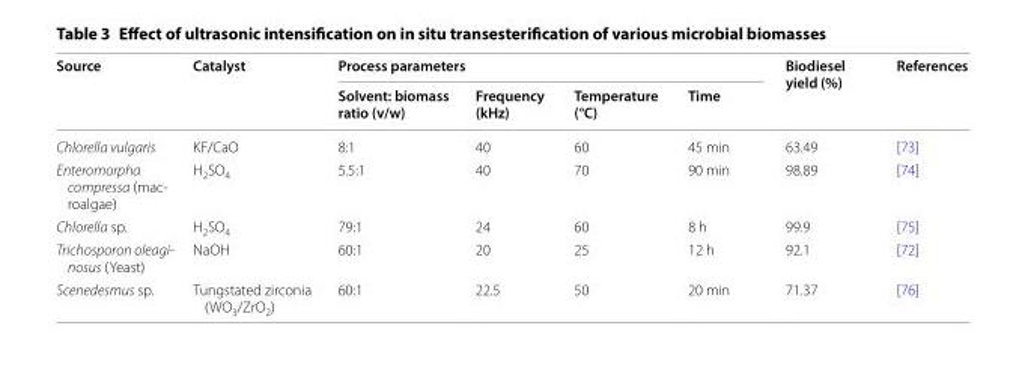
<table><thead><tr><td rowspan="2">Source</td><td rowspan="2">Catalyst</td><td colspan="4">Process parameters</td><td rowspan="2">Biodiesel yield (%)</td><td rowspan="2">References</td></tr><tr><td>Solvent: biomass ratio (v/w)</td><td>Frequency (kHz)</td><td>Temperature (°C)</td><td>Time</td></tr></thead><tbody><tr><td>Chlorella vulgaris</td><td>KF/CaO</td><td>8:1</td><td>40</td><td>60</td><td>45 min</td><td>63.49</td><td>[73]</td></tr><tr><td>Enteromorpha compressa (mac- roalgae)</td><td>H<sub>2</sub>SO<sub>4</sub></td><td>5.5:1</td><td>40</td><td>70</td><td>90 min</td><td>98.89</td><td>[74]</td></tr><tr><td>Chlorella sp.</td><td>H<sub>2</sub>SO<sub>4</sub></td><td>79:1</td><td>24</td><td>60</td><td>8 h</td><td>99.9</td><td>[75]</td></tr><tr><td>Trichosporon oleagi- nosus (Yeast)</td><td>NaOH</td><td>60:1</td><td>20</td><td>25</td><td>12 h</td><td>92.1</td><td>[72]</td></tr><tr><td>Scenedesmus sp.</td><td>Tungstated zirconia (WO<sub>3</sub>/ZrO<sub>2</sub>)</td><td>60:1</td><td>22.5</td><td>50</td><td>20 min</td><td>71.37</td><td>[76]</td></tr></tbody></table>